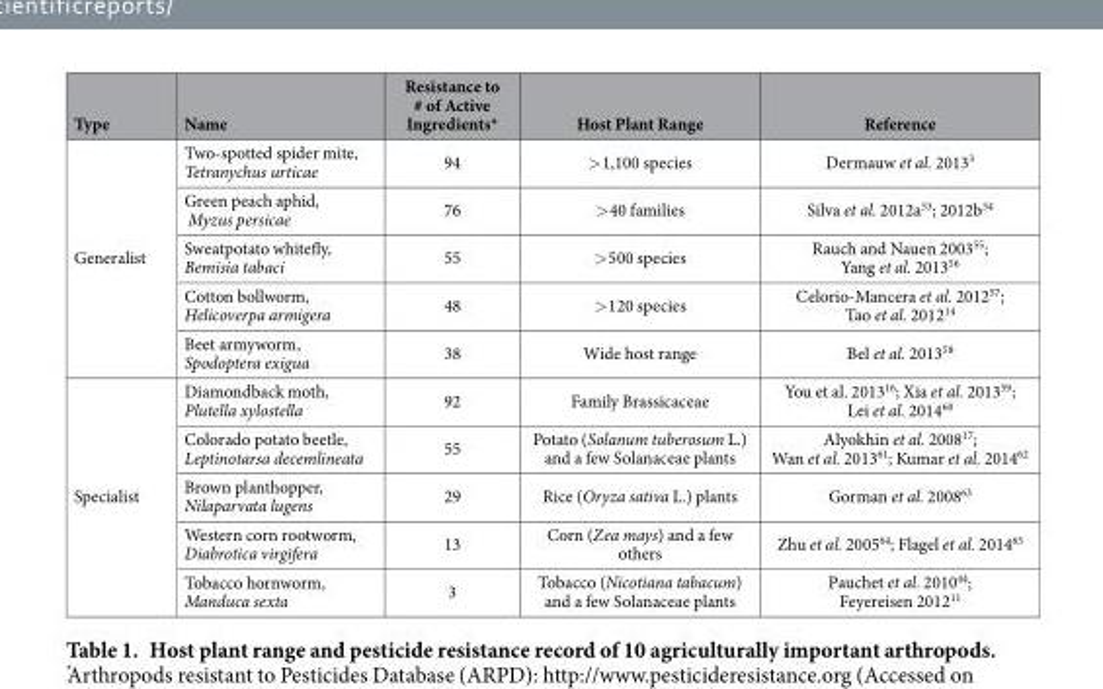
<table><thead><tr><td>Type</td><td>Name</td><td>Resistance to # of Active Ingredients*</td><td>Host Plant Range</td><td>Reference</td></tr></thead><tbody><tr><td rowspan="5">Generalist</td><td>Two-spotted spider mite, Tetranychus urticae</td><td>94</td><td>&gt; 1,100 species</td><td>Dermauw et al. 2013<sup>3</sup></td></tr><tr><td>Green peach aphid, Myzus persicae</td><td>76</td><td>&gt; 40 families</td><td>Silva et al. 2012a<sup>53</sup>; 2012b<sup>54</sup></td></tr><tr><td>Sweatpotato whitefly, Bemisia tabaci</td><td>55</td><td>&gt; 500 species</td><td>Rauch and Nauen 2003<sup>55</sup>; Yang et al. 2013<sup>56</sup></td></tr><tr><td>Cotton bollworm, Helicoverpa armigera</td><td>48</td><td>&gt; 120 species</td><td>Celorio-Mancera et al. 2012<sup>57</sup>; Tao et al. 2012<sup>14</sup></td></tr><tr><td>Beet armyworm, Spodoptera exigua</td><td>38</td><td>Wide host range</td><td>Bel et al. 2013<sup>58</sup></td></tr><tr><td rowspan="5">Specialist</td><td>Diamondback moth, Plutella xylostella</td><td>92</td><td>Family Brassicaceae</td><td>You et al. 2013<sup>16</sup>; Xia et al. 2013<sup>59</sup>; Lei et al. 2014<sup>60</sup></td></tr><tr><td>Colorado potato beetle, Leptinotarsa decemlineata</td><td>55</td><td>Potato (Solanum tuberosum L.) and a few Solanaceae plants</td><td>Alyokhin et al. 2008<sup>17</sup>; Wan et al. 2013<sup>61</sup>; Kumar et al. 2014<sup>62</sup></td></tr><tr><td>Brown planthopper, Nilaparvata lugens</td><td>29</td><td>Rice (Oryza sativa L.) plants</td><td>Gorman et al. 2008<sup>63</sup></td></tr><tr><td>Western corn rootworm, Diabrotica virgifera</td><td>13</td><td>Corn (Zea mays) and a few others</td><td>Zhu et al. 2005<sup>64</sup>; Flagel et al. 2014<sup>65</sup></td></tr><tr><td>Tobacco hornworm, Manduca sexta</td><td>3</td><td>Tobacco (Nicotiana tabacum) and a few Solanaceae plants</td><td>Pauchet et al. 2010<sup>44</sup>; Feyereisen 2012<sup>11</sup></td></tr></tbody></table>